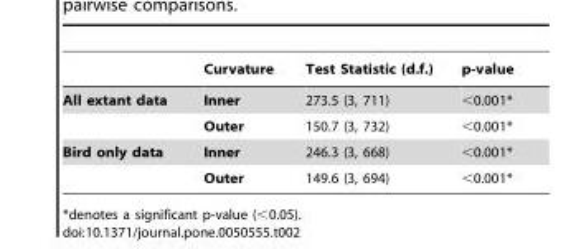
<table><thead><tr><td></td><td>Curvature</td><td>Test Statistic (d.f.)</td><td>p-value</td></tr></thead><tbody><tr><td rowspan="2">All extant data</td><td>Inner</td><td>273.5 (3, 711)</td><td>&lt;0.001*</td></tr><tr><td>Outer</td><td>150.7 (3, 732)</td><td>&lt;0.001*</td></tr><tr><td rowspan="2">Bird only data</td><td>Inner</td><td>246.3 (3, 668)</td><td>&lt;0.001*</td></tr><tr><td>Outer</td><td>149.6 (3, 694)</td><td>&lt;0.001*</td></tr></tbody></table>